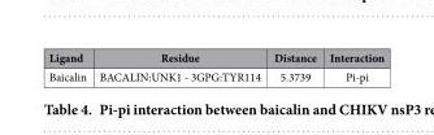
<table><thead><tr><td>Ligand</td><td>Residue</td><td>Distance</td><td>Interaction</td></tr></thead><tbody><tr><td>Baicalin</td><td>BACALIN:UNK1 - 3GPG:TYR114</td><td>5.3739</td><td>Pi-pi</td></tr></tbody></table>